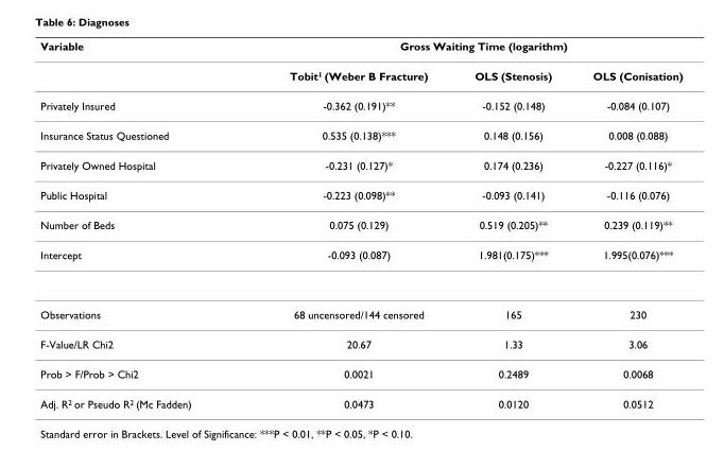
<table><thead><tr><td rowspan="2">Variable</td><td colspan="3">Gross Waiting Time (logarithm)</td></tr><tr><td>Tobit<sup>1</sup> (Weber B Fracture)</td><td>OLS (Stenosis)</td><td>OLS (Conisation)</td></tr></thead><tbody><tr><td>Privately Insured</td><td>-0.362 (0.191)**</td><td>-0.152 (0.148)</td><td>-0.084 (0.107)</td></tr><tr><td>Insurance Status Questioned</td><td>0.535 (0.138)***</td><td>0.148 (0.156)</td><td>0.008 (0.088)</td></tr><tr><td>Privately Owned Hospital</td><td>-0.231 (0.127)*</td><td>0.174 (0.236)</td><td>-0.227 (0.116)*</td></tr><tr><td>Public Hospital</td><td>-0.223 (0.098)**</td><td>-0.093 (0.141)</td><td>-0.116 (0.076)</td></tr><tr><td>Number of Beds</td><td>0.075 (0.129)</td><td>0.519 (0.205)**</td><td>0.239 (0.119)**</td></tr><tr><td>Intercept</td><td>-0.093 (0.087)</td><td>1.981(0.175)***</td><td>1.995(0.076)***</td></tr><tr><td>Observations</td><td>68 uncensored/144 censored</td><td>165</td><td>230</td></tr><tr><td>F-Value/LR Chi2</td><td>20.67</td><td>1.33</td><td>3.06</td></tr><tr><td>Prob &gt; F/Prob &gt; Chi2</td><td>0.0021</td><td>0.2489</td><td>0.0068</td></tr><tr><td>Adj. R2 or Pseudo R2 (Mc Fadden)</td><td>0.0473</td><td>0.0120</td><td>0.0512</td></tr></tbody></table>